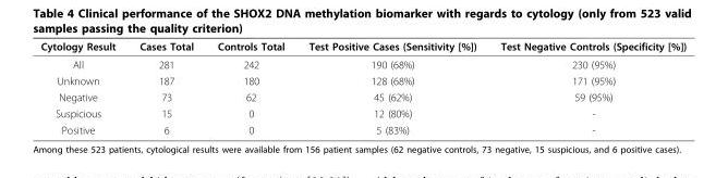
<table><thead><tr><td>Cytology Result</td><td>Cases Total</td><td>Controls Total</td><td>Test Positive Cases (Sensitivity [%])</td><td>Test Negative Controls (Specificity [%])</td></tr></thead><tbody><tr><td>All</td><td>281</td><td>242</td><td>190 (68%)</td><td>230 (95%)</td></tr><tr><td>Unknown</td><td>187</td><td>180</td><td>128 (68%)</td><td>171 (95%)</td></tr><tr><td>Negative</td><td>73</td><td>62</td><td>45 (62%)</td><td>59 (95%)</td></tr><tr><td>Suspicious</td><td>15</td><td>0</td><td>12 (80%)</td><td>-</td></tr><tr><td>Positive</td><td>6</td><td>0</td><td>5 (83%)</td><td>-</td></tr></tbody></table>